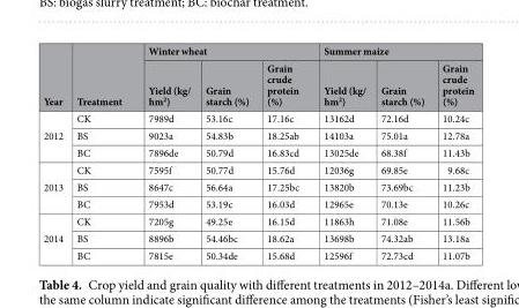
<table><thead><tr><td rowspan="2">Year</td><td rowspan="2">Treatment</td><td colspan="3">Winter wheat</td><td colspan="3">Summer maize</td></tr><tr><td>Yield (kg/ hm<sup>2</sup>)</td><td>Grain starch (%)</td><td>Grain crude protein (%)</td><td>Yield (kg/ hm<sup>2</sup>)</td><td>Grain starch (%)</td><td>Grain crude protein (%)</td></tr></thead><tbody><tr><td rowspan="3">2012</td><td>CK</td><td>7989d</td><td>53.16c</td><td>17.16c</td><td>13162d</td><td>72.16d</td><td>10.24c</td></tr><tr><td>BS</td><td>9023a</td><td>54.83b</td><td>18.25ab</td><td>14103a</td><td>75.01a</td><td>12.78a</td></tr><tr><td>BC</td><td>7896de</td><td>50.79d</td><td>16.83cd</td><td>13025de</td><td>68.38f</td><td>11.43b</td></tr><tr><td rowspan="3">2013</td><td>CK</td><td>7595f</td><td>50.77d</td><td>15.76d</td><td>12036g</td><td>69.85e</td><td>9.68c</td></tr><tr><td>BS</td><td>8647c</td><td>56.64a</td><td>17.25bc</td><td>13820b</td><td>73.69bc</td><td>11.23b</td></tr><tr><td>BC</td><td>7953d</td><td>53.19c</td><td>16.03d</td><td>12965e</td><td>70.13e</td><td>10.26c</td></tr><tr><td rowspan="3">2014</td><td>CK</td><td>7205g</td><td>49.25e</td><td>16.15d</td><td>11863h</td><td>71.08e</td><td>11.56b</td></tr><tr><td>BS</td><td>8896b</td><td>54.46bc</td><td>18.62a</td><td>13698b</td><td>74.32ab</td><td>13.18a</td></tr><tr><td>BC</td><td>7815e</td><td>50.34de</td><td>15.68d</td><td>12596f</td><td>72.73cd</td><td>11.07b</td></tr></tbody></table>